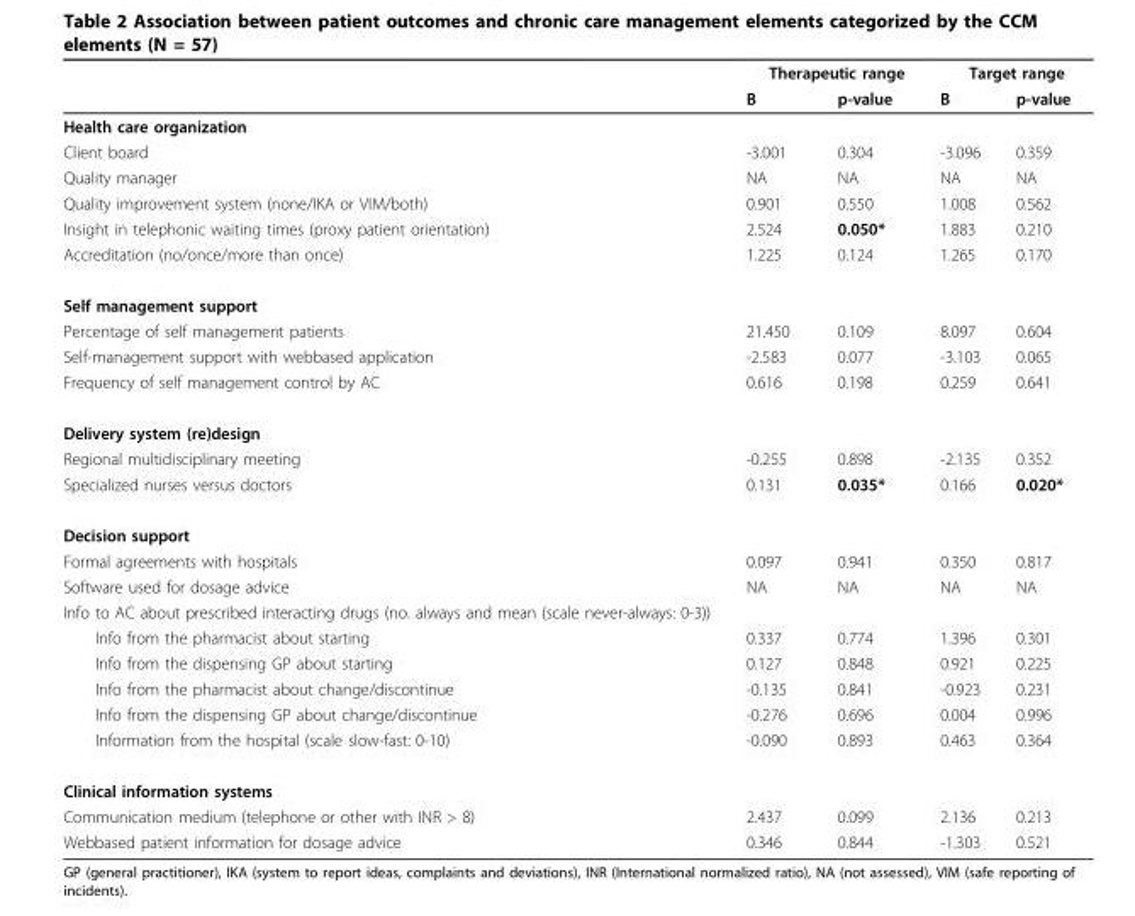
<table><thead><tr><td rowspan="2"></td><td colspan="2">Therapeutic range</td><td colspan="2">Target range</td></tr><tr><td>B</td><td>p-value</td><td>B</td><td>p-value</td></tr></thead><tbody><tr><td colspan="5">Health care organization</td></tr><tr><td>Client board</td><td>-3.001</td><td>0.304</td><td>-3.096</td><td>0.359</td></tr><tr><td>Quality manager</td><td>NA</td><td>NA</td><td>NA</td><td>NA</td></tr><tr><td>Quality improvement system (none/IKA or VIM/both)</td><td>0.901</td><td>0.550</td><td>1.008</td><td>0.562</td></tr><tr><td>Insight in telephonic waiting times (proxy patient orientation)</td><td>2.524</td><td>0.050*</td><td>1.883</td><td>0.210</td></tr><tr><td>Accreditation (no/once/more than once)</td><td>1.225</td><td>0.124</td><td>1.265</td><td>0.170</td></tr><tr><td colspan="5">Self management support</td></tr><tr><td>Percentage of self management patients</td><td>21.450</td><td>0.109</td><td>8.097</td><td>0.604</td></tr><tr><td>Self-management support with webbased application</td><td>-2.583</td><td>0.077</td><td>-3.103</td><td>0.065</td></tr><tr><td>Frequency of self management control by AC</td><td>0.616</td><td>0.198</td><td>0.259</td><td>0.641</td></tr><tr><td colspan="5">Delivery system (re)design</td></tr><tr><td>Regional multidisciplinary meeting</td><td>-0.255</td><td>0.898</td><td>-2.135</td><td>0.352</td></tr><tr><td>Specialized nurses versus doctors</td><td>0.131</td><td>0.035*</td><td>0.166</td><td>0.020*</td></tr><tr><td colspan="5">Decision support</td></tr><tr><td>Formal agreements with hospitals</td><td>0.097</td><td>0.941</td><td>0.350</td><td>0.817</td></tr><tr><td>Software used for dosage advice</td><td>NA</td><td>NA</td><td>NA</td><td>NA</td></tr><tr><td colspan="5">Info to AC about prescribed interacting drugs (no. always and mean (scale never-always: 0-3))</td></tr><tr><td>Info from the pharmacist about starting</td><td>0.337</td><td>0.774</td><td>1.396</td><td>0.301</td></tr><tr><td>Info from the dispensing GP about starting</td><td>0.127</td><td>0.848</td><td>0.921</td><td>0.225</td></tr><tr><td>Info from the pharmacist about change/discontinue</td><td>-0.135</td><td>0.841</td><td>-0.923</td><td>0.231</td></tr><tr><td>Info from the dispensing GP about change/discontinue</td><td>-0.276</td><td>0.696</td><td>0.004</td><td>0.996</td></tr><tr><td>Information from the hospital (scale slow-fast: 0-10)</td><td>-0.090</td><td>0.893</td><td>0.463</td><td>0.364</td></tr><tr><td colspan="5">Clinical information systems</td></tr><tr><td>Communication medium (telephone or other with INR &gt; 8)</td><td>2.437</td><td>0.099</td><td>2.136</td><td>0.213</td></tr><tr><td>Webbased patient information for dosage advice</td><td>0.346</td><td>0.844</td><td>-1.303</td><td>0.521</td></tr></tbody></table>